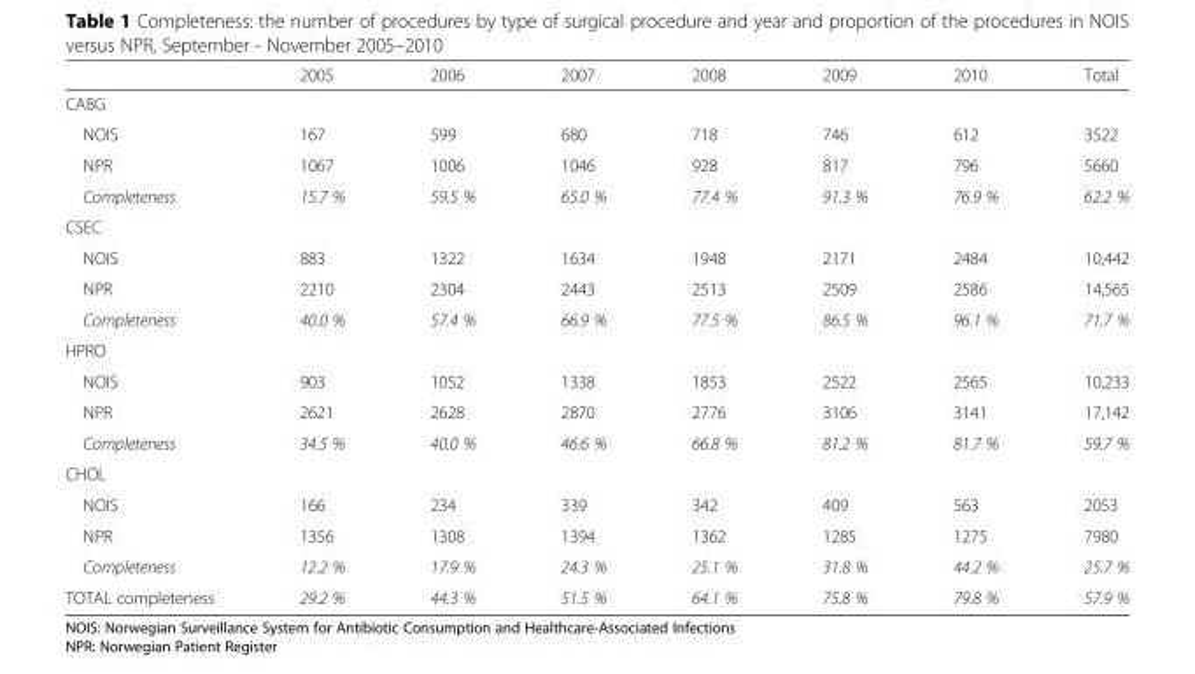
<table><thead><tr><td></td><td>2005</td><td>2006</td><td>2007</td><td>2008</td><td>2009</td><td>2010</td><td>Total</td></tr></thead><tbody><tr><td colspan="8">CABG</td></tr><tr><td>NOIS</td><td>167</td><td>599</td><td>680</td><td>718</td><td>746</td><td>612</td><td>3522</td></tr><tr><td>NPR</td><td>1067</td><td>1006</td><td>1046</td><td>928</td><td>817</td><td>796</td><td>5660</td></tr><tr><td>Completeness</td><td>15.7 %</td><td>59.5 %</td><td>65.0 %</td><td>77.4 %</td><td>91.3 %</td><td>76.9 %</td><td>62.2 %</td></tr><tr><td colspan="8">CSEC</td></tr><tr><td>NOIS</td><td>883</td><td>1322</td><td>1634</td><td>1948</td><td>2171</td><td>2484</td><td>10,442</td></tr><tr><td>NPR</td><td>2210</td><td>2304</td><td>2443</td><td>2513</td><td>2509</td><td>2586</td><td>14,565</td></tr><tr><td>Completeness</td><td>40.0 %</td><td>57.4 %</td><td>66.9 %</td><td>77.5 %</td><td>86.5 %</td><td>96.1 %</td><td>71.7 %</td></tr><tr><td colspan="8">HPRO</td></tr><tr><td>NOIS</td><td>903</td><td>1052</td><td>1338</td><td>1853</td><td>2522</td><td>2565</td><td>10,233</td></tr><tr><td>NPR</td><td>2621</td><td>2628</td><td>2870</td><td>2776</td><td>3106</td><td>3141</td><td>17,142</td></tr><tr><td>Completeness</td><td>34.5 %</td><td>40.0 %</td><td>46.6 %</td><td>66.8 %</td><td>81.2 %</td><td>81.7 %</td><td>59.7 %</td></tr><tr><td colspan="8">CHOL</td></tr><tr><td>NOIS</td><td>166</td><td>234</td><td>339</td><td>342</td><td>409</td><td>563</td><td>2053</td></tr><tr><td>NPR</td><td>1356</td><td>1308</td><td>1394</td><td>1362</td><td>1285</td><td>1275</td><td>7980</td></tr><tr><td>Completeness</td><td>12.2 %</td><td>17.9 %</td><td>24.3 %</td><td>25.1 %</td><td>31.8 %</td><td>44.2 %</td><td>25.7 %</td></tr><tr><td>TOTAL completeness</td><td>29.2 %</td><td>44.3 %</td><td>51.5 %</td><td>64.1 %</td><td>75.8 %</td><td>79.8 %</td><td>57.9 %</td></tr></tbody></table>